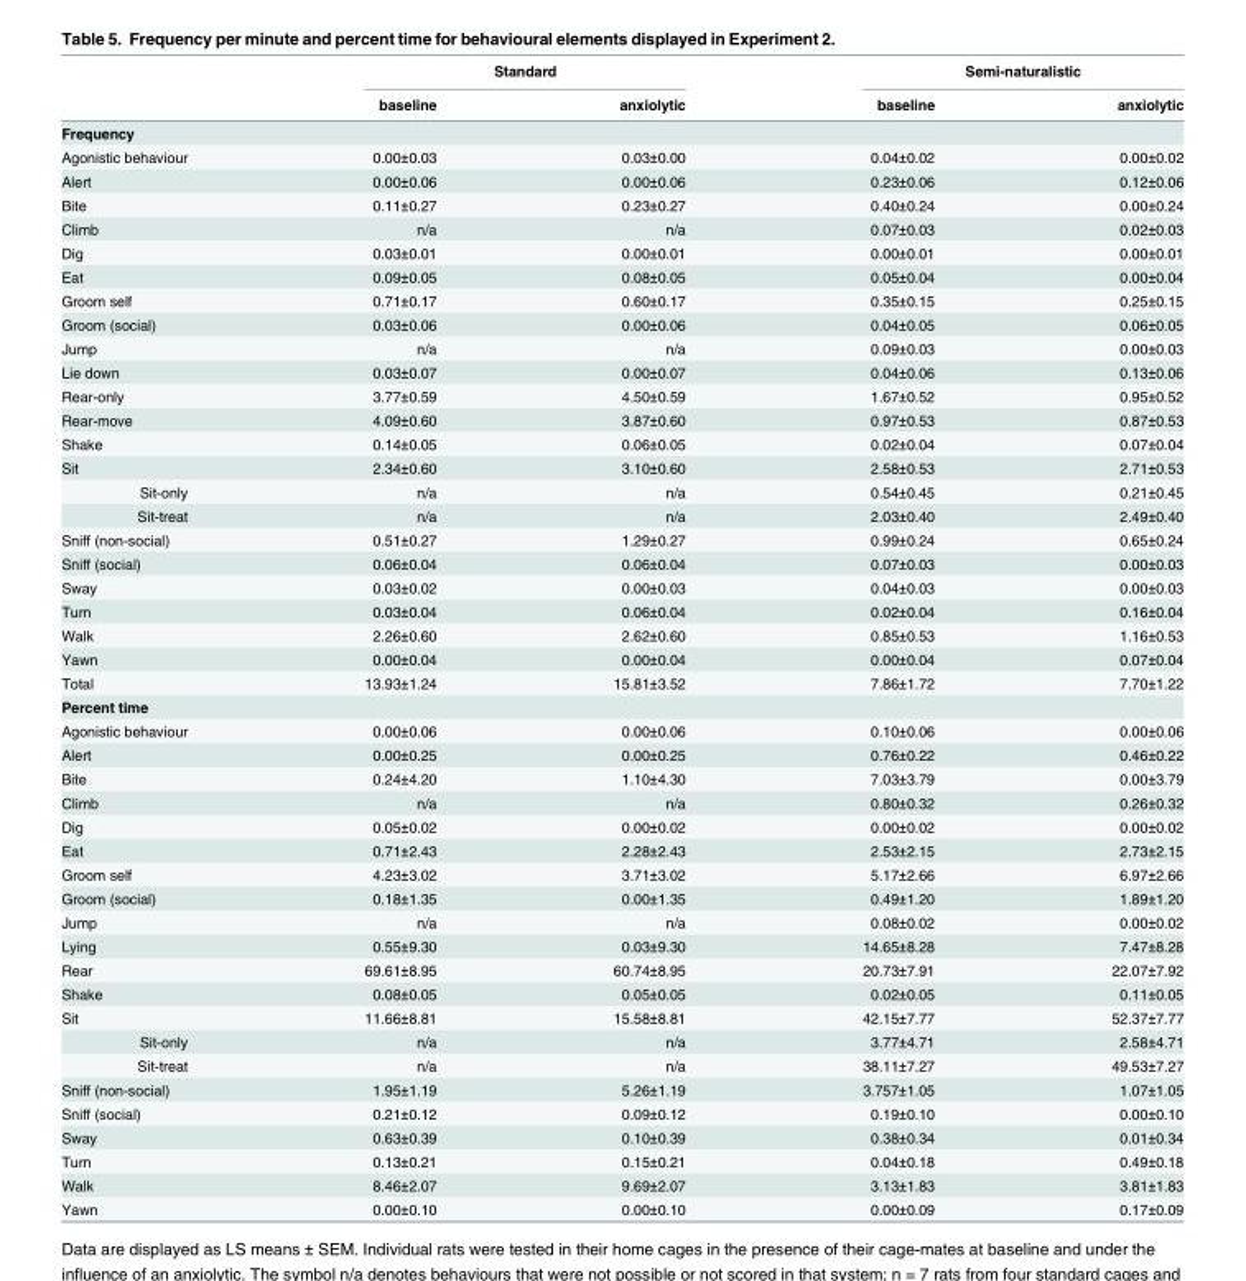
<table><thead><tr><td rowspan="2"></td><td colspan="2">Standard</td><td colspan="2">Semi-naturalistic</td></tr><tr><td>baseline</td><td>anxiolytic</td><td>baseline</td><td>anxiolytic</td></tr></thead><tbody><tr><td colspan="5">Frequency</td></tr><tr><td>Agonistic behaviour</td><td>0.00±0.03</td><td>0.03±0.00</td><td>0.04±0.02</td><td>0.00±0.02</td></tr><tr><td>Alert</td><td>0.00±0.06</td><td>0.00±0.06</td><td>0.23±0.06</td><td>0.12±0.06</td></tr><tr><td>Bite</td><td>0.11±0.27</td><td>0.23±0.27</td><td>0.40±0.24</td><td>0.00±0.24</td></tr><tr><td>Climb</td><td>n/a</td><td>n/a</td><td>0.07±0.03</td><td>0.02±0.03</td></tr><tr><td>Dig</td><td>0.03±0.01</td><td>0.00±0.01</td><td>0.00±0.01</td><td>0.00±0.01</td></tr><tr><td>Eat</td><td>0.09±0.05</td><td>0.08±0.05</td><td>0.05±0.04</td><td>0.00±0.04</td></tr><tr><td>Groom self</td><td>0.71±0.17</td><td>0.60±0.17</td><td>0.35±0.15</td><td>0.25±0.15</td></tr><tr><td>Groom (social)</td><td>0.03±0.06</td><td>0.00±0.06</td><td>0.04±0.05</td><td>0.06±0.05</td></tr><tr><td>Jump</td><td>n/a</td><td>n/a</td><td>0.09±0.03</td><td>0.00±0.03</td></tr><tr><td>Lie down</td><td>0.03±0.07</td><td>0.00±0.07</td><td>0.04±0.06</td><td>0.13±0.06</td></tr><tr><td>Rear-only</td><td>3.77±0.59</td><td>4.50±0.59</td><td>1.67±0.52</td><td>0.95±0.52</td></tr><tr><td>Rear-move</td><td>4.09±0.60</td><td>3.87±0.60</td><td>0.97±0.53</td><td>0.87±0.53</td></tr><tr><td>Shake</td><td>0.14±0.05</td><td>0.06±0.05</td><td>0.02±0.04</td><td>0.07±0.04</td></tr><tr><td>Sit</td><td>2.34±0.60</td><td>3.10±0.60</td><td>2.58±0.53</td><td>2.71±0.53</td></tr><tr><td>Sit-only</td><td>n/a</td><td>n/a</td><td>0.54±0.45</td><td>0.21±0.45</td></tr><tr><td>Sit-treat</td><td>n/a</td><td>n/a</td><td>2.03±0.40</td><td>2.49±0.40</td></tr><tr><td>Sniff (non-social)</td><td>0.51±0.27</td><td>1.29±0.27</td><td>0.99±0.24</td><td>0.65±0.24</td></tr><tr><td>Sniff (social)</td><td>0.06±0.04</td><td>0.06±0.04</td><td>0.07±0.03</td><td>0.00±0.03</td></tr><tr><td>Sway</td><td>0.03±0.02</td><td>0.00±0.03</td><td>0.04±0.03</td><td>0.00±0.03</td></tr><tr><td>Turn</td><td>0.03±0.04</td><td>0.06±0.04</td><td>0.02±0.04</td><td>0.16±0.04</td></tr><tr><td>Walk</td><td>2.26±0.60</td><td>2.62±0.60</td><td>0.85±0.53</td><td>1.16±0.53</td></tr><tr><td>Yawn</td><td>0.00±0.04</td><td>0.00±0.04</td><td>0.00±0.04</td><td>0.07±0.04</td></tr><tr><td>Total</td><td>13.93±1.24</td><td>15.81±3.52</td><td>7.86±1.72</td><td>7.70±1.22</td></tr><tr><td colspan="5">Percent time</td></tr><tr><td>Agonistic behaviour</td><td>0.00±0.06</td><td>0.00±0.06</td><td>0.10±0.06</td><td>0.00±0.06</td></tr><tr><td>Alert</td><td>0.00±0.25</td><td>0.00±0.25</td><td>0.76±0.22</td><td>0.46±0.22</td></tr><tr><td>Bite</td><td>0.24±4.20</td><td>1.10±4.30</td><td>7.03±3.79</td><td>0.00±3.79</td></tr><tr><td>Climb</td><td>n/a</td><td>n/a</td><td>0.80±0.32</td><td>0.26±0.32</td></tr><tr><td>Dig</td><td>0.05±0.02</td><td>0.00±0.02</td><td>0.00±0.02</td><td>0.00±0.02</td></tr><tr><td>Eat</td><td>0.71±2.43</td><td>2.28±2.43</td><td>2.53±2.15</td><td>2.73±2.15</td></tr><tr><td>Groom self</td><td>4.23±3.02</td><td>3.71±3.02</td><td>5.17±2.66</td><td>6.97±2.66</td></tr><tr><td>Groom (social)</td><td>0.18±1.35</td><td>0.00±1.35</td><td>0.49±1.20</td><td>1.89±1.20</td></tr><tr><td>Jump</td><td>n/a</td><td>n/a</td><td>0.08±0.02</td><td>0.00±0.02</td></tr><tr><td>Lying</td><td>0.55±9.30</td><td>0.03±9.30</td><td>14.65±8.28</td><td>7.47±8.28</td></tr><tr><td>Rear</td><td>69.61±8.95</td><td>60.74±8.95</td><td>20.73±7.91</td><td>22.07±7.92</td></tr><tr><td>Shake</td><td>0.08±0.05</td><td>0.05±0.05</td><td>0.02±0.05</td><td>0.11±0.05</td></tr><tr><td>Sit</td><td>11.66±8.81</td><td>15.58±8.81</td><td>42.15±7.77</td><td>52.37±7.77</td></tr><tr><td>Sit-only</td><td>n/a</td><td>n/a</td><td>3.77±4.71</td><td>2.58±4.71</td></tr><tr><td>Sit-treat</td><td>n/a</td><td>n/a</td><td>38.11±7.27</td><td>49.53±7.27</td></tr><tr><td>Sniff (non-social)</td><td>1.95±1.19</td><td>5.26±1.19</td><td>3.757±1.05</td><td>1.07±1.05</td></tr><tr><td>Sniff (social)</td><td>0.21±0.12</td><td>0.09±0.12</td><td>0.19±0.10</td><td>0.00±0.10</td></tr><tr><td>Sway</td><td>0.63±0.39</td><td>0.10±0.39</td><td>0.38±0.34</td><td>0.01±0.34</td></tr><tr><td>Turn</td><td>0.13±0.21</td><td>0.15±0.21</td><td>0.04±0.18</td><td>0.49±0.18</td></tr><tr><td>Walk</td><td>8.46±2.07</td><td>9.69±2.07</td><td>3.13±1.83</td><td>3.81±1.83</td></tr><tr><td>Yawn</td><td>0.00±0.10</td><td>0.00±0.10</td><td>0.00±0.09</td><td>0.17±0.09</td></tr></tbody></table>